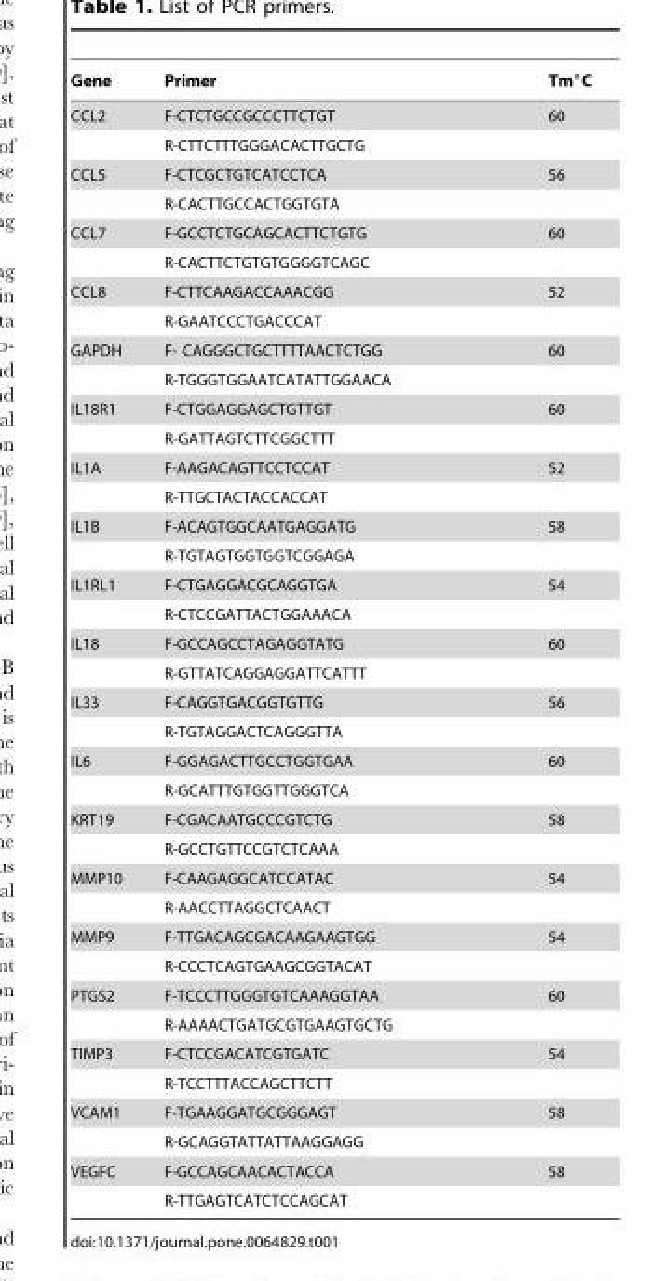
<table><thead><tr><td>Gene</td><td>Primer</td><td>Tm°C</td></tr></thead><tbody><tr><td rowspan="2">CCL2</td><td>F-CTCTGCCGCCCTTCTGT</td><td>60</td></tr><tr><td>R-CTTCTTTGGGACACTTGCTG</td><td></td></tr><tr><td rowspan="2">CCL5</td><td>F-CTCGCTGTCATCCTCA</td><td>56</td></tr><tr><td>R-CACTTGCCACTGGTGTA</td><td></td></tr><tr><td rowspan="2">CCL7</td><td>F-GCCTCTGCAGCACTTCTGTG</td><td>60</td></tr><tr><td>R-CACTTCTGTGTGGGGTCAGC</td><td></td></tr><tr><td rowspan="2">CCL8</td><td>F-CTTCAAGACCAAACGG</td><td>52</td></tr><tr><td>R-GAATCCCTGACCCAT</td><td></td></tr><tr><td rowspan="2">GAPDH</td><td>F- CAGGGCTGCTTTTAACTCTGG</td><td>60</td></tr><tr><td>R-TGGGTGGAATCATATTGGAACA</td><td></td></tr><tr><td rowspan="2">IL18R1</td><td>F-CTGGAGGAGCTGTTGT</td><td>60</td></tr><tr><td>R-GATTAGTCTTCGGCTTT</td><td></td></tr><tr><td rowspan="2">IL1A</td><td>F-AAGACAGTTCCTCCAT</td><td>52</td></tr><tr><td>R-TTGCTACTACCACCAT</td><td></td></tr><tr><td rowspan="2">IL1B</td><td>F-ACAGTGGCAATGAGGATG</td><td>58</td></tr><tr><td>R-TGTAGTGGTGGTCGGAGA</td><td></td></tr><tr><td rowspan="2">IL1RL1</td><td>F-CTGAGGACGCAGGTGA</td><td>54</td></tr><tr><td>R-CTCCGATTACTGGAAACA</td><td></td></tr><tr><td rowspan="2">IL18</td><td>F-GCCAGCCTAGAGGTATG</td><td>60</td></tr><tr><td>R-GTTATCAGGAGGATTCATTT</td><td></td></tr><tr><td rowspan="2">IL33</td><td>F-CAGGTGACGGTGTTG</td><td>56</td></tr><tr><td>R-TGTAGGACTCAGGGTTA</td><td></td></tr><tr><td rowspan="2">IL6</td><td>F-GGAGACTTGCCTGGTGAA</td><td>60</td></tr><tr><td>R-GCATTTGTGGTTGGGTCA</td><td></td></tr><tr><td rowspan="2">KRT19</td><td>F-CGACAATGCCCGTCTG</td><td>58</td></tr><tr><td>R-GCCTGTTCCGTCTCAAA</td><td></td></tr><tr><td rowspan="2">MMP10</td><td>F-CAAGAGGCATCCATAC</td><td>54</td></tr><tr><td>R-AACCTTAGGCTCAACT</td><td></td></tr><tr><td rowspan="2">MMP9</td><td>F-TTGACAGCGACAAGAAGTGG</td><td>54</td></tr><tr><td>R-CCCTCAGTGAAGCGGTACAT</td><td></td></tr><tr><td rowspan="2">PTGS2</td><td>F-TCCCTTGGGTGTCAAAGGTAA</td><td>60</td></tr><tr><td>R-AAAACTGATGCGTGAAGTGCTG</td><td></td></tr><tr><td rowspan="2">TIMP3</td><td>F-CTCCGACATCGTGATC</td><td>54</td></tr><tr><td>R-TCCTTTACCAGCTTCTT</td><td></td></tr><tr><td rowspan="2">VCAM1</td><td>F-TGAAGGATGCGGGAGT</td><td>58</td></tr><tr><td>R-GCAGGTATTATTAAGGAGG</td><td></td></tr><tr><td rowspan="2">VEGFC</td><td>F-GCCAGCAACACTACCA</td><td>58</td></tr><tr><td>R-TTGAGTCATCTCCAGCAT</td><td></td></tr></tbody></table>